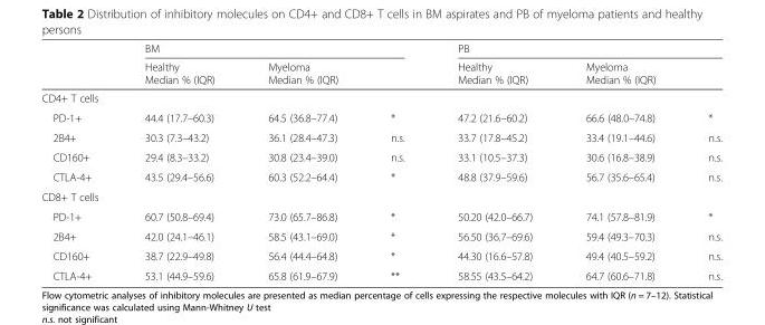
<table><thead><tr><td rowspan="2"></td><td colspan="3">BM</td><td colspan="3">PB</td></tr><tr><td>Healthy Median % (IQR)</td><td colspan="2">Myeloma Median % (IQR)</td><td>Healthy Median % (IQR)</td><td colspan="2">Myeloma Median % (IQR)</td></tr><tr><td colspan="7">CD4+ T cells</td></tr><tr><td>PD-1+</td><td>44.4 (17.7–60.3)</td><td>64.5 (36.8–77.4)</td><td>*</td><td>47.2 (21.6–60.2)</td><td>66.6 (48.0–74.8)</td><td>*</td></tr></thead><tbody><tr><td>2B4+</td><td>30.3 (7.3–43.2)</td><td>36.1 (28.4–47.3)</td><td>n.s.</td><td>33.7 (17.8–45.2)</td><td>33.4 (19.1–44.6)</td><td>n.s.</td></tr><tr><td>CD160+</td><td>29.4 (8.3–33.2)</td><td>30.8 (23.4–39.0)</td><td>n.s.</td><td>33.1 (10.5–37.3)</td><td>30.6 (16.8–38.9)</td><td>n.s.</td></tr><tr><td>CTLA-4+</td><td>43.5 (29.4–56.6)</td><td>60.3 (52.2–64.4)</td><td>*</td><td>48.8 (37.9–59.6)</td><td>56.7 (35.6–65.4)</td><td>n.s.</td></tr><tr><td colspan="7">CD8+ T cells</td></tr><tr><td>PD-1+</td><td>60.7 (50.8–69.4)</td><td>73.0 (65.7–86.8)</td><td>*</td><td>50.20 (42.0–66.7)</td><td>74.1 (57.8–81.9)</td><td>*</td></tr><tr><td>2B4+</td><td>42.0 (24.1–46.1)</td><td>58.5 (43.1–69.0)</td><td>*</td><td>56.50 (36.7–69.6)</td><td>59.4 (49.3–70.3)</td><td>n.s.</td></tr><tr><td>CD160+</td><td>38.7 (22.9–49.8)</td><td>56.4 (44.4–64.8)</td><td>*</td><td>44.30 (16.6–57.8)</td><td>49.4 (40.5–59.2)</td><td>n.s.</td></tr><tr><td>CTLA-4+</td><td>53.1 (44.9–59.6)</td><td>65.8 (61.9–67.9)</td><td>**</td><td>58.55 (43.5–64.2)</td><td>64.7 (60.6–71.8)</td><td>n.s.</td></tr></tbody></table>